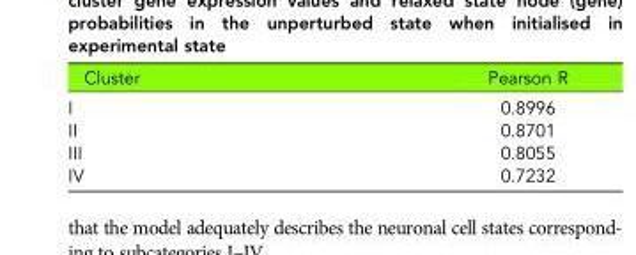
<table><thead><tr><td>Cluster</td><td>Pearson R</td></tr></thead><tbody><tr><td>I</td><td>0.8996</td></tr><tr><td>II</td><td>0.8701</td></tr><tr><td>III</td><td>0.8055</td></tr><tr><td>IV</td><td>0.7232</td></tr></tbody></table>